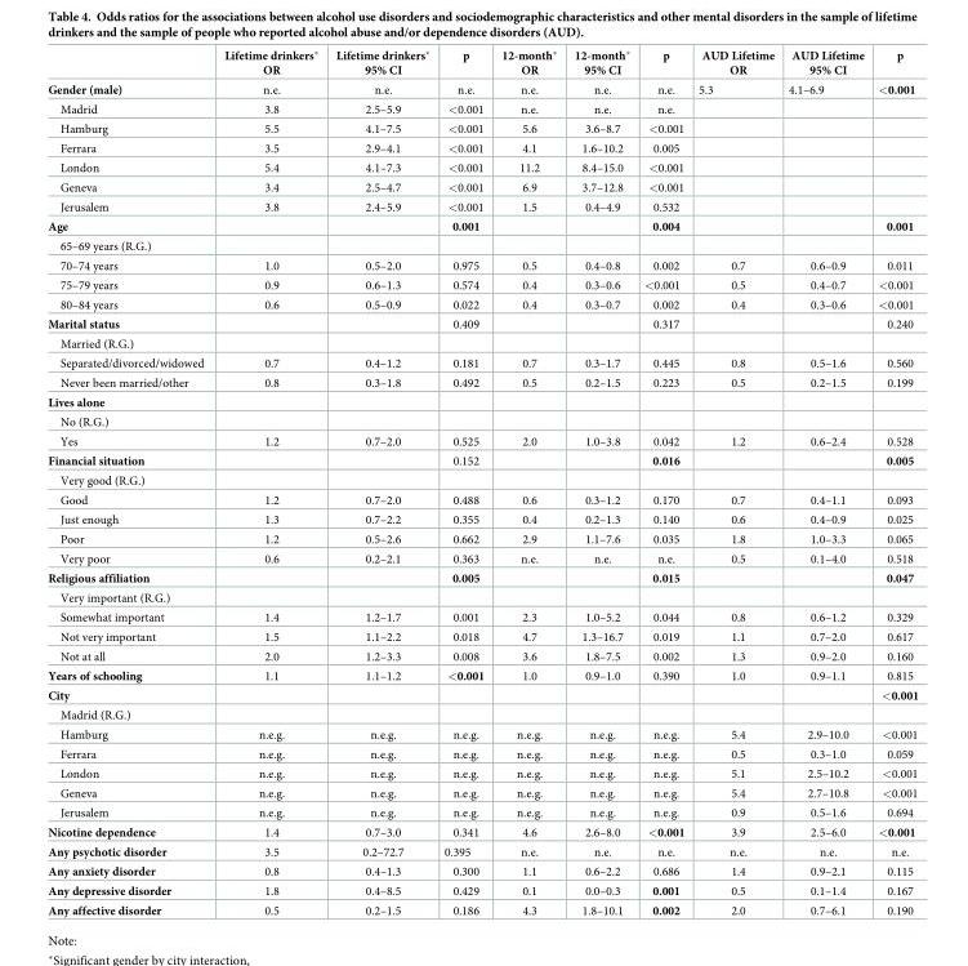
<table><thead><tr><td></td><td>Lifetime drinkers* OR</td><td>Lifetime drinkers* 95% CI</td><td>p</td><td>12-month* OR</td><td>12-month* 95% CI</td><td>p</td><td>AUD Lifetime OR</td><td>AUD Lifetime 95% CI</td><td>p</td></tr></thead><tbody><tr><td>Gender (male)</td><td>n.e.</td><td>n.e.</td><td>n.e.</td><td>n.e.</td><td>n.e.</td><td>n.e.</td><td>5.3</td><td>4.1–6.9</td><td>&lt;0.001</td></tr><tr><td>Madrid</td><td>3.8</td><td>2.5–5.9</td><td>&lt;0.001</td><td>n.e.</td><td>n.e.</td><td>n.e.</td><td></td><td></td><td></td></tr><tr><td>Hamburg</td><td>5.5</td><td>4.1–7.5</td><td>&lt;0.001</td><td>5.6</td><td>3.6–8.7</td><td>&lt;0.001</td><td></td><td></td><td></td></tr><tr><td>Ferrara</td><td>3.5</td><td>2.9–4.1</td><td>&lt;0.001</td><td>4.1</td><td>1.6–10.2</td><td>0.005</td><td></td><td></td><td></td></tr><tr><td>London</td><td>5.4</td><td>4.1–7.3</td><td>&lt;0.001</td><td>11.2</td><td>8.4–15.0</td><td>&lt;0.001</td><td></td><td></td><td></td></tr><tr><td>Geneva</td><td>3.4</td><td>2.5–4.7</td><td>&lt;0.001</td><td>6.9</td><td>3.7–12.8</td><td>&lt;0.001</td><td></td><td></td><td></td></tr><tr><td>Jerusalem</td><td>3.8</td><td>2.4–5.9</td><td>&lt;0.001</td><td>1.5</td><td>0.4–4.9</td><td>0.532</td><td></td><td></td><td></td></tr><tr><td>Age</td><td></td><td></td><td>0.001</td><td></td><td></td><td>0.004</td><td></td><td></td><td>0.001</td></tr><tr><td colspan="10">65–69 years (R.G.)</td></tr><tr><td>70–74 years</td><td>1.0</td><td>0.5–2.0</td><td>0.975</td><td>0.5</td><td>0.4–0.8</td><td>0.002</td><td>0.7</td><td>0.6–0.9</td><td>0.011</td></tr><tr><td>75–79 years</td><td>0.9</td><td>0.6–1.3</td><td>0.574</td><td>0.4</td><td>0.3–0.6</td><td>&lt;0.001</td><td>0.5</td><td>0.4–0.7</td><td>&lt;0.001</td></tr><tr><td>80–84 years</td><td>0.6</td><td>0.5–0.9</td><td>0.022</td><td>0.4</td><td>0.3–0.7</td><td>0.002</td><td>0.4</td><td>0.3–0.6</td><td>&lt;0.001</td></tr><tr><td>Marital status</td><td></td><td></td><td>0.409</td><td></td><td></td><td>0.317</td><td></td><td></td><td>0.240</td></tr><tr><td colspan="10">Married (R.G.)</td></tr><tr><td>Separated/divorced/widowed</td><td>0.7</td><td>0.4–1.2</td><td>0.181</td><td>0.7</td><td>0.3–1.7</td><td>0.445</td><td>0.8</td><td>0.5–1.6</td><td>0.560</td></tr><tr><td>Never been married/other</td><td>0.8</td><td>0.3–1.8</td><td>0.492</td><td>0.5</td><td>0.2–1.5</td><td>0.223</td><td>0.5</td><td>0.2–1.5</td><td>0.199</td></tr><tr><td colspan="10">Lives alone</td></tr><tr><td colspan="10">No (R.G.)</td></tr><tr><td>Yes</td><td>1.2</td><td>0.7–2.0</td><td>0.525</td><td>2.0</td><td>1.0–3.8</td><td>0.042</td><td>1.2</td><td>0.6–2.4</td><td>0.528</td></tr><tr><td>Financial situation</td><td></td><td></td><td>0.152</td><td></td><td></td><td>0.016</td><td></td><td></td><td>0.005</td></tr><tr><td colspan="10">Very good (R.G.)</td></tr><tr><td>Good</td><td>1.2</td><td>0.7–2.0</td><td>0.488</td><td>0.6</td><td>0.3–1.2</td><td>0.170</td><td>0.7</td><td>0.4–1.1</td><td>0.093</td></tr><tr><td>Just enough</td><td>1.3</td><td>0.7–2.2</td><td>0.355</td><td>0.4</td><td>0.2–1.3</td><td>0.140</td><td>0.6</td><td>0.4–0.9</td><td>0.025</td></tr><tr><td>Poor</td><td>1.2</td><td>0.5–2.6</td><td>0.662</td><td>2.9</td><td>1.1–7.6</td><td>0.035</td><td>1.8</td><td>1.0–3.3</td><td>0.065</td></tr><tr><td>Very poor</td><td>0.6</td><td>0.2–2.1</td><td>0.363</td><td>n.e.</td><td>n.e.</td><td>n.e.</td><td>0.5</td><td>0.1–4.0</td><td>0.518</td></tr><tr><td>Religious affiliation</td><td></td><td></td><td>0.005</td><td></td><td></td><td>0.015</td><td></td><td></td><td>0.047</td></tr><tr><td colspan="10">Very important (R.G.)</td></tr><tr><td>Somewhat important</td><td>1.4</td><td>1.2–1.7</td><td>0.001</td><td>2.3</td><td>1.0–5.2</td><td>0.044</td><td>0.8</td><td>0.6–1.2</td><td>0.329</td></tr><tr><td>Not very important</td><td>1.5</td><td>1.1–2.2</td><td>0.018</td><td>4.7</td><td>1.3–16.7</td><td>0.019</td><td>1.1</td><td>0.7–2.0</td><td>0.617</td></tr><tr><td>Not at all</td><td>2.0</td><td>1.2–3.3</td><td>0.008</td><td>3.6</td><td>1.8–7.5</td><td>0.002</td><td>1.3</td><td>0.9–2.0</td><td>0.160</td></tr><tr><td>Years of schooling</td><td>1.1</td><td>1.1–1.2</td><td>&lt;0.001</td><td>1.0</td><td>0.9–1.0</td><td>0.390</td><td>1.0</td><td>0.9–1.1</td><td>0.815</td></tr><tr><td>City</td><td></td><td></td><td></td><td></td><td></td><td></td><td></td><td></td><td>&lt;0.001</td></tr><tr><td colspan="10">Madrid (R.G.)</td></tr><tr><td>Hamburg</td><td>n.e.g.</td><td>n.e.g.</td><td>n.e.g.</td><td>n.e.g.</td><td>n.e.g.</td><td>n.e.g.</td><td>5.4</td><td>2.9–10.0</td><td>&lt;0.001</td></tr><tr><td>Ferrara</td><td>n.e.g.</td><td>n.e.g.</td><td>n.e.g.</td><td>n.e.g.</td><td>n.e.g.</td><td>n.e.g.</td><td>0.5</td><td>0.3–1.0</td><td>0.059</td></tr><tr><td>London</td><td>n.e.g.</td><td>n.e.g.</td><td>n.e.g.</td><td>n.e.g.</td><td>n.e.g.</td><td>n.e.g.</td><td>5.1</td><td>2.5–10.2</td><td>&lt;0.001</td></tr><tr><td>Geneva</td><td>n.e.g.</td><td>n.e.g.</td><td>n.e.g.</td><td>n.e.g.</td><td>n.e.g.</td><td>n.e.g.</td><td>5.4</td><td>2.7–10.8</td><td>&lt;0.001</td></tr><tr><td>Jerusalem</td><td>n.e.g.</td><td>n.e.g.</td><td>n.e.g.</td><td>n.e.g.</td><td>n.e.g.</td><td>n.e.g.</td><td>0.9</td><td>0.5–1.6</td><td>0.694</td></tr><tr><td>Nicotine dependence</td><td>1.4</td><td>0.7–3.0</td><td>0.341</td><td>4.6</td><td>2.6–8.0</td><td>&lt;0.001</td><td>3.9</td><td>2.5–6.0</td><td>&lt;0.001</td></tr><tr><td>Any psychotic disorder</td><td>3.5</td><td>0.2–72.7</td><td>0.395</td><td>n.e.</td><td>n.e.</td><td>n.e.</td><td>n.e.</td><td>n.e.</td><td>n.e.</td></tr><tr><td>Any anxiety disorder</td><td>0.8</td><td>0.4–1.3</td><td>0.300</td><td>1.1</td><td>0.6–2.2</td><td>0.686</td><td>1.4</td><td>0.9–2.1</td><td>0.115</td></tr><tr><td>Any depressive disorder</td><td>1.8</td><td>0.4–8.5</td><td>0.429</td><td>0.1</td><td>0.0–0.3</td><td>0.001</td><td>0.5</td><td>0.1–1.4</td><td>0.167</td></tr><tr><td>Any affective disorder</td><td>0.5</td><td>0.2–1.5</td><td>0.186</td><td>4.3</td><td>1.8–10.1</td><td>0.002</td><td>2.0</td><td>0.7–6.1</td><td>0.190</td></tr></tbody></table>